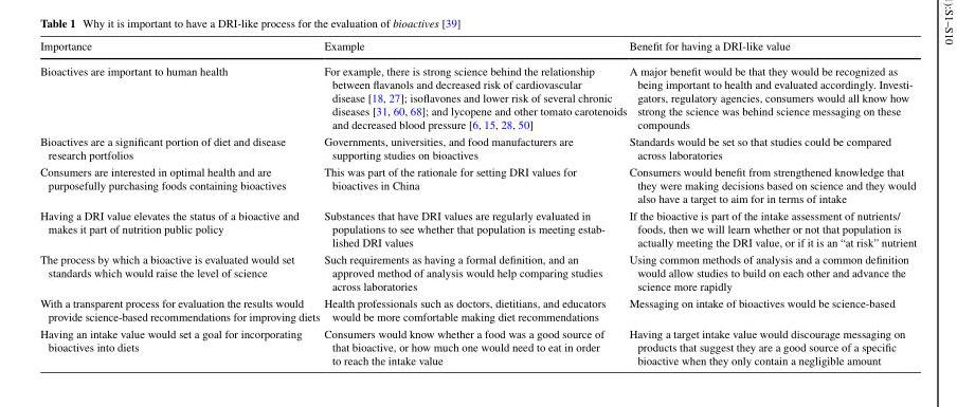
<table><thead><tr><td>Importance</td><td>Example</td><td>Benefit for having a DRI-like value</td></tr></thead><tbody><tr><td>Bioactives are important to human health</td><td>For example, there is strong science behind the relationship between flavanols and decreased risk of cardiovascular disease [18, 27]; isoflavones and lower risk of several chronic diseases [31, 60, 68]; and lycopene and other tomato carotenoids and decreased blood pressure [6, 15, 28, 50]</td><td>A major benefit would be that they would be recognized as being important to health and evaluated accordingly. Investi- gators, regulatory agencies, consumers would all know how strong the science was behind science messaging on these compounds</td></tr><tr><td>Bioactives are a significant portion of diet and disease research portfolios</td><td>Governments, universities, and food manufacturers are supporting studies on bioactives</td><td>Standards would be set so that studies could be compared across laboratories</td></tr><tr><td>Consumers are interested in optimal health and are purposefully purchasing foods containing bioactives</td><td>This was part of the rationale for setting DRI values for bioactives in China</td><td>Consumers would benefit from strengthened knowledge that they were making decisions based on science and they would also have a target to aim for in terms of intake</td></tr><tr><td>Having a DRI value elevates the status of a bioactive and makes it part of nutrition public policy</td><td>Substances that have DRI values are regularly evaluated in populations to see whether that population is meeting estab- lished DRI values</td><td>If the bioactive is part of the intake assessment of nutrients/ foods, then we will learn whether or not that population is actually meeting the DRI value, or if it is an “at risk” nutrient</td></tr><tr><td>The process by which a bioactive is evaluated would set standards which would raise the level of science</td><td>Such requirements as having a formal definition, and an approved method of analysis would help comparing studies across laboratories</td><td>Using common methods of analysis and a common definition would allow studies to build on each other and advance the science more rapidly</td></tr><tr><td>With a transparent process for evaluation the results would provide science-based recommendations for improving diets</td><td>Health professionals such as doctors, dietitians, and educators would be more comfortable making diet recommendations</td><td>Messaging on intake of bioactives would be science-based</td></tr><tr><td>Having an intake value would set a goal for incorporating bioactives into diets</td><td>Consumers would know whether a food was a good source of that bioactive, or how much one would need to eat in order to reach the intake value</td><td>Having a target intake value would discourage messaging on products that suggest they are a good source of a specific bioactive when they only contain a negligible amount</td></tr></tbody></table>